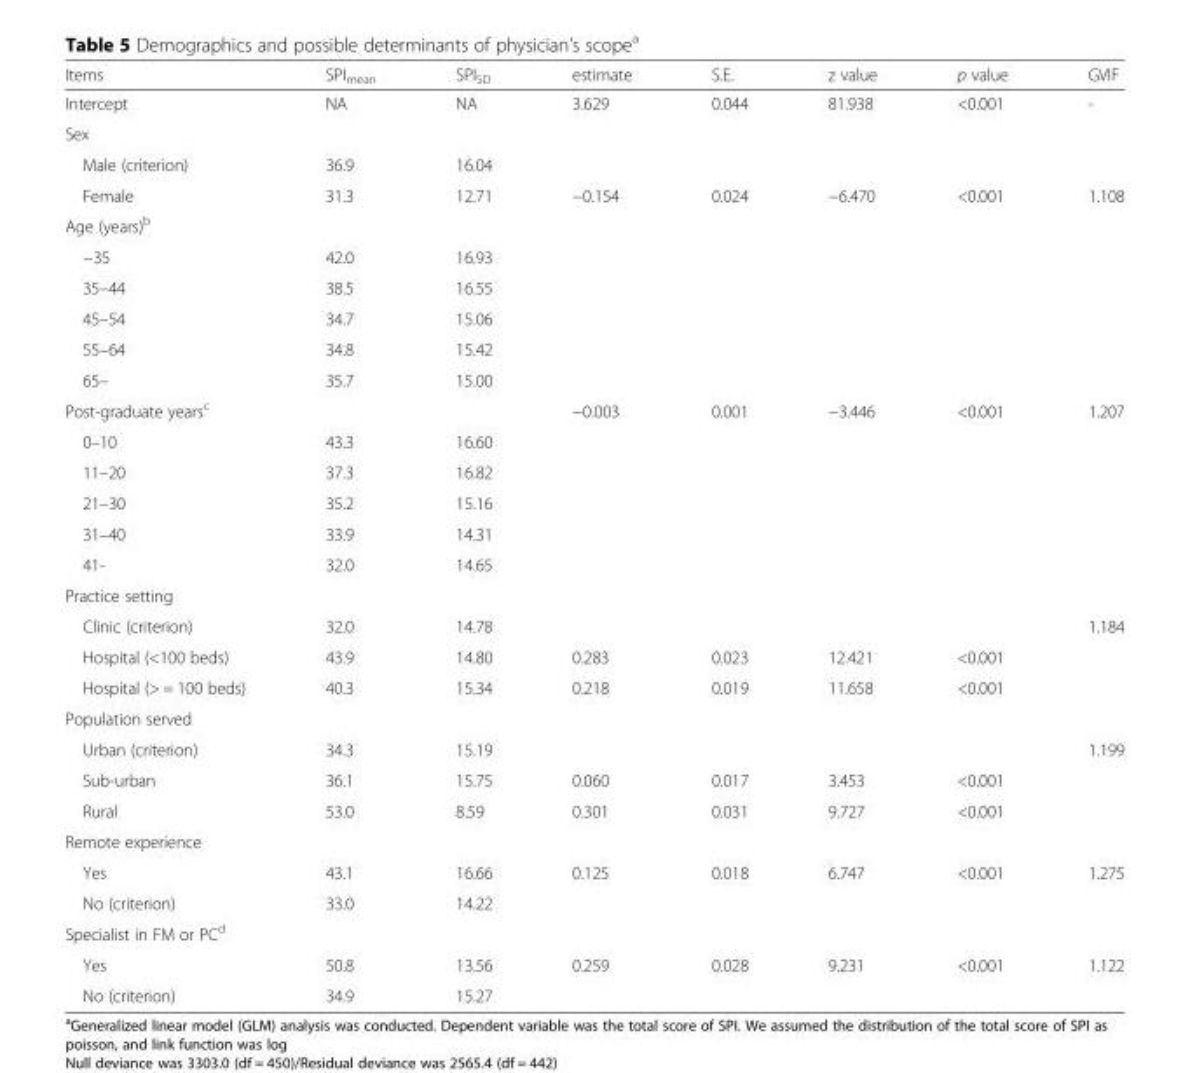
<table><thead><tr><td>Items</td><td>SPI<sub>mean</sub></td><td>SPI<sub>SD</sub></td><td>estimate</td><td>S.E.</td><td>z value</td><td>p value</td><td>GVIF</td></tr></thead><tbody><tr><td>Intercept</td><td>NA</td><td>NA</td><td>3.629</td><td>0.044</td><td>81.938</td><td>&lt;0.001</td><td>-</td></tr><tr><td colspan="8">Sex</td></tr><tr><td>Male (criterion)</td><td>36.9</td><td>16.04</td><td></td><td></td><td></td><td></td><td></td></tr><tr><td>Female</td><td>31.3</td><td>12.71</td><td>−0.154</td><td>0.024</td><td>−6.470</td><td>&lt;0.001</td><td>1.108</td></tr><tr><td colspan="8">Age (years)<sup>b</sup></td></tr><tr><td>−35</td><td>42.0</td><td>16.93</td><td></td><td></td><td></td><td></td><td></td></tr><tr><td>35–44</td><td>38.5</td><td>16.55</td><td></td><td></td><td></td><td></td><td></td></tr><tr><td>45–54</td><td>34.7</td><td>15.06</td><td></td><td></td><td></td><td></td><td></td></tr><tr><td>55–64</td><td>34.8</td><td>15.42</td><td></td><td></td><td></td><td></td><td></td></tr><tr><td>65–</td><td>35.7</td><td>15.00</td><td></td><td></td><td></td><td></td><td></td></tr><tr><td>Post-graduate years<sup>c</sup></td><td></td><td></td><td>−0.003</td><td>0.001</td><td>−3.446</td><td>&lt;0.001</td><td>1.207</td></tr><tr><td>0–10</td><td>43.3</td><td>16.60</td><td></td><td></td><td></td><td></td><td></td></tr><tr><td>11–20</td><td>37.3</td><td>16.82</td><td></td><td></td><td></td><td></td><td></td></tr><tr><td>21–30</td><td>35.2</td><td>15.16</td><td></td><td></td><td></td><td></td><td></td></tr><tr><td>31–40</td><td>33.9</td><td>14.31</td><td></td><td></td><td></td><td></td><td></td></tr><tr><td>41-</td><td>32.0</td><td>14.65</td><td></td><td></td><td></td><td></td><td></td></tr><tr><td colspan="8">Practice setting</td></tr><tr><td>Clinic (criterion)</td><td>32.0</td><td>14.78</td><td></td><td></td><td></td><td></td><td>1.184</td></tr><tr><td>Hospital (&lt;100 beds)</td><td>43.9</td><td>14.80</td><td>0.283</td><td>0.023</td><td>12.421</td><td>&lt;0.001</td><td></td></tr><tr><td>Hospital (&gt; = 100 beds)</td><td>40.3</td><td>15.34</td><td>0.218</td><td>0.019</td><td>11.658</td><td>&lt;0.001</td><td></td></tr><tr><td colspan="8">Population served</td></tr><tr><td>Urban (criterion)</td><td>34.3</td><td>15.19</td><td></td><td></td><td></td><td></td><td>1.199</td></tr><tr><td>Sub-urban</td><td>36.1</td><td>15.75</td><td>0.060</td><td>0.017</td><td>3.453</td><td>&lt;0.001</td><td></td></tr><tr><td>Rural</td><td>53.0</td><td>8.59</td><td>0.301</td><td>0.031</td><td>9.727</td><td>&lt;0.001</td><td></td></tr><tr><td colspan="8">Remote experience</td></tr><tr><td>Yes</td><td>43.1</td><td>16.66</td><td>0.125</td><td>0.018</td><td>6.747</td><td>&lt;0.001</td><td>1.275</td></tr><tr><td>No (criterion)</td><td>33.0</td><td>14.22</td><td></td><td></td><td></td><td></td><td></td></tr><tr><td colspan="8">Specialist in FM or PC<sup>d</sup></td></tr><tr><td>Yes</td><td>50.8</td><td>13.56</td><td>0.259</td><td>0.028</td><td>9.231</td><td>&lt;0.001</td><td>1.122</td></tr><tr><td>No (criterion)</td><td>34.9</td><td>15.27</td><td></td><td></td><td></td><td></td><td></td></tr></tbody></table>